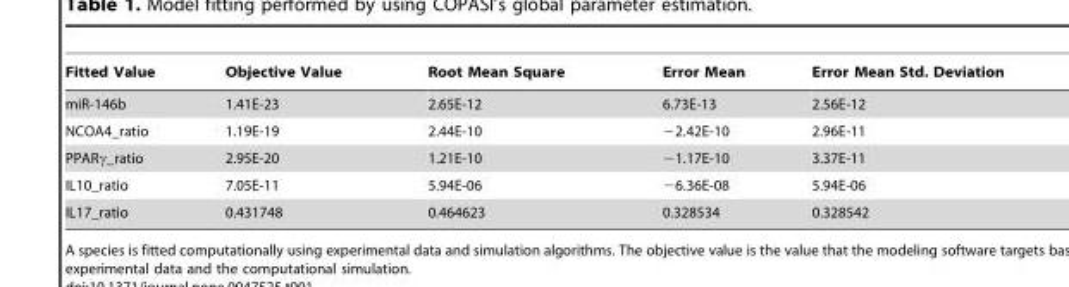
<table><thead><tr><td>Fitted Value</td><td>Objective Value</td><td>Root Mean Square</td><td>Error Mean</td><td>Error Mean Std. Deviation</td></tr></thead><tbody><tr><td>miR-146b</td><td>1.41E-23</td><td>2.65E-12</td><td>6.73E-13</td><td>2.56E-12</td></tr><tr><td>NCOA4_ratio</td><td>1.19E-19</td><td>2.44E-10</td><td>−2.42E-10</td><td>2.96E-11</td></tr><tr><td>PPARγ_ratio</td><td>2.95E-20</td><td>1.21E-10</td><td>−1.17E-10</td><td>3.37E-11</td></tr><tr><td>IL10_ratio</td><td>7.05E-11</td><td>5.94E-06</td><td>−6.36E-08</td><td>5.94E-06</td></tr><tr><td>IL17_ratio</td><td>0.431748</td><td>0.464623</td><td>0.328534</td><td>0.328542</td></tr></tbody></table>